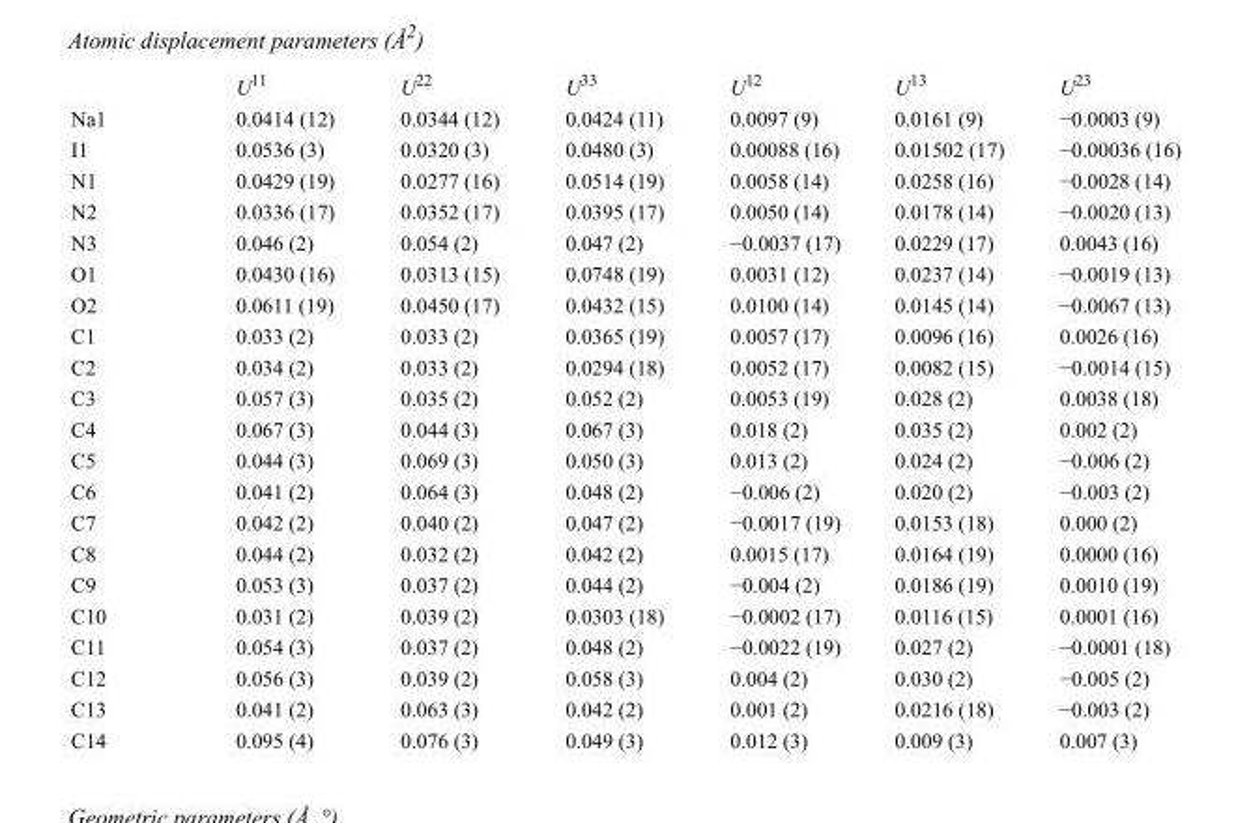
<table><thead><tr><td></td><td>U<sup>11</sup></td><td>U<sup>22</sup></td><td>U<sup>33</sup></td><td>U<sup>12</sup></td><td>U<sup>13</sup></td><td>U<sup>23</sup></td></tr></thead><tbody><tr><td>Na1</td><td>0.0414 (12)</td><td>0.0344 (12)</td><td>0.0424 (11)</td><td>0.0097 (9)</td><td>0.0161 (9)</td><td>−0.0003 (9)</td></tr><tr><td>I1</td><td>0.0536 (3)</td><td>0.0320 (3)</td><td>0.0480 (3)</td><td>0.00088 (16)</td><td>0.01502 (17)</td><td>−0.00036 (16)</td></tr><tr><td>N1</td><td>0.0429 (19)</td><td>0.0277 (16)</td><td>0.0514 (19)</td><td>0.0058 (14)</td><td>0.0258 (16)</td><td>−0.0028 (14)</td></tr><tr><td>N2</td><td>0.0336 (17)</td><td>0.0352 (17)</td><td>0.0395 (17)</td><td>0.0050 (14)</td><td>0.0178 (14)</td><td>−0.0020 (13)</td></tr><tr><td>N3</td><td>0.046 (2)</td><td>0.054 (2)</td><td>0.047 (2)</td><td>−0.0037 (17)</td><td>0.0229 (17)</td><td>0.0043 (16)</td></tr><tr><td>O1</td><td>0.0430 (16)</td><td>0.0313 (15)</td><td>0.0748 (19)</td><td>0.0031 (12)</td><td>0.0237 (14)</td><td>−0.0019 (13)</td></tr><tr><td>O2</td><td>0.0611 (19)</td><td>0.0450 (17)</td><td>0.0432 (15)</td><td>0.0100 (14)</td><td>0.0145 (14)</td><td>−0.0067 (13)</td></tr><tr><td>C1</td><td>0.033 (2)</td><td>0.033 (2)</td><td>0.0365 (19)</td><td>0.0057 (17)</td><td>0.0096 (16)</td><td>0.0026 (16)</td></tr><tr><td>C2</td><td>0.034 (2)</td><td>0.033 (2)</td><td>0.0294 (18)</td><td>0.0052 (17)</td><td>0.0082 (15)</td><td>−0.0014 (15)</td></tr><tr><td>C3</td><td>0.057 (3)</td><td>0.035 (2)</td><td>0.052 (2)</td><td>0.0053 (19)</td><td>0.028 (2)</td><td>0.0038 (18)</td></tr><tr><td>C4</td><td>0.067 (3)</td><td>0.044 (3)</td><td>0.067 (3)</td><td>0.018 (2)</td><td>0.035 (2)</td><td>0.002 (2)</td></tr><tr><td>C5</td><td>0.044 (3)</td><td>0.069 (3)</td><td>0.050 (3)</td><td>0.013 (2)</td><td>0.024 (2)</td><td>−0.006 (2)</td></tr><tr><td>C6</td><td>0.041 (2)</td><td>0.064 (3)</td><td>0.048 (2)</td><td>−0.006 (2)</td><td>0.020 (2)</td><td>−0.003 (2)</td></tr><tr><td>C7</td><td>0.042 (2)</td><td>0.040 (2)</td><td>0.047 (2)</td><td>−0.0017 (19)</td><td>0.0153 (18)</td><td>0.000 (2)</td></tr><tr><td>C8</td><td>0.044 (2)</td><td>0.032 (2)</td><td>0.042 (2)</td><td>0.0015 (17)</td><td>0.0164 (19)</td><td>0.0000 (16)</td></tr><tr><td>C9</td><td>0.053 (3)</td><td>0.037 (2)</td><td>0.044 (2)</td><td>−0.004 (2)</td><td>0.0186 (19)</td><td>0.0010 (19)</td></tr><tr><td>C10</td><td>0.031 (2)</td><td>0.039 (2)</td><td>0.0303 (18)</td><td>−0.0002 (17)</td><td>0.0116 (15)</td><td>0.0001 (16)</td></tr><tr><td>C11</td><td>0.054 (3)</td><td>0.037 (2)</td><td>0.048 (2)</td><td>−0.0022 (19)</td><td>0.027 (2)</td><td>−0.0001 (18)</td></tr><tr><td>C12</td><td>0.056 (3)</td><td>0.039 (2)</td><td>0.058 (3)</td><td>0.004 (2)</td><td>0.030 (2)</td><td>−0.005 (2)</td></tr><tr><td>C13</td><td>0.041 (2)</td><td>0.063 (3)</td><td>0.042 (2)</td><td>0.001 (2)</td><td>0.0216 (18)</td><td>−0.003 (2)</td></tr><tr><td>C14</td><td>0.095 (4)</td><td>0.076 (3)</td><td>0.049 (3)</td><td>0.012 (3)</td><td>0.009 (3)</td><td>0.007 (3)</td></tr></tbody></table>